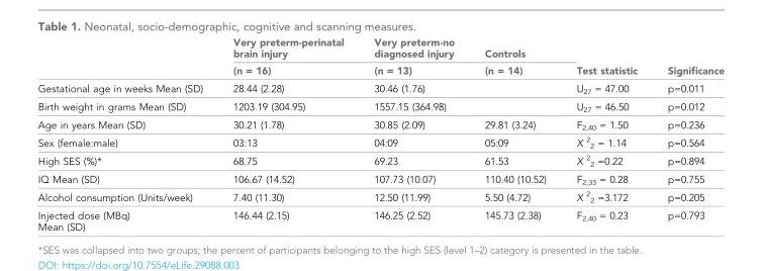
<table><thead><tr><td rowspan="2"></td><td rowspan="2">Very preterm-perinatal brain injury (n = 16)</td><td rowspan="2">Very preterm-no diagnosed injury (n = 13)</td><td rowspan="2">Controls (n = 14)</td><td rowspan="2">Test statistic</td><td rowspan="2">Significance</td></tr><tr></tr></thead><tbody><tr><td>Gestational age in weeks Mean (SD)</td><td>28.44 (2.28)</td><td>30.46 (1.76)</td><td></td><td>U<sub>27</sub> = 47.00</td><td>p=0.011</td></tr><tr><td>Birth weight in grams Mean (SD)</td><td>1203.19 (304.95)</td><td>1557.15 (364.98)</td><td></td><td>U<sub>27</sub> = 46.50</td><td>p=0.012</td></tr><tr><td>Age in years Mean (SD)</td><td>30.21 (1.78)</td><td>30.85 (2.09)</td><td>29.81 (3.24)</td><td>F<sub>2,40</sub> = 1.50</td><td>p=0.236</td></tr><tr><td>Sex (female:male)</td><td>03:13</td><td>04:09</td><td>05:09</td><td>X <sup>2</sup> <sub>2</sub> = 1.14</td><td>p=0.564</td></tr><tr><td>High SES (%)*</td><td>68.75</td><td>69.23</td><td>61.53</td><td>X <sup>2</sup> <sub>2</sub> =0.22</td><td>p=0.894</td></tr><tr><td>IQ Mean (SD)</td><td>106.67 (14.52)</td><td>107.73 (10.07)</td><td>110.40 (10.52)</td><td>F<sub>2,33</sub> = 0.28</td><td>p=0.755</td></tr><tr><td>Alcohol consumption (Units/week)</td><td>7.40 (11.30)</td><td>12.50 (11.99)</td><td>5.50 (4.72)</td><td>X <sup>2</sup> <sub>2</sub> =3.172</td><td>p=0.205</td></tr><tr><td>Injected dose (MBq) Mean (SD)</td><td>146.44 (2.15)</td><td>146.25 (2.52)</td><td>145.73 (2.38)</td><td>F<sub>2,40</sub> = 0.23</td><td>p=0.793</td></tr></tbody></table>